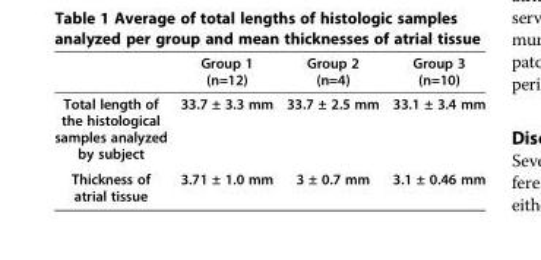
<table><thead><tr><td></td><td>Group 1 (n=12)</td><td>Group 2 (n=4)</td><td>Group 3 (n=10)</td></tr></thead><tbody><tr><td>Total length of the histological samples analyzed by subject</td><td>33.7 ± 3.3 mm</td><td>33.7 ± 2.5 mm</td><td>33.1 ± 3.4 mm</td></tr><tr><td>Thickness of atrial tissue</td><td>3.71 ± 1.0 mm</td><td>3 ± 0.7 mm</td><td>3.1 ± 0.46 mm</td></tr></tbody></table>